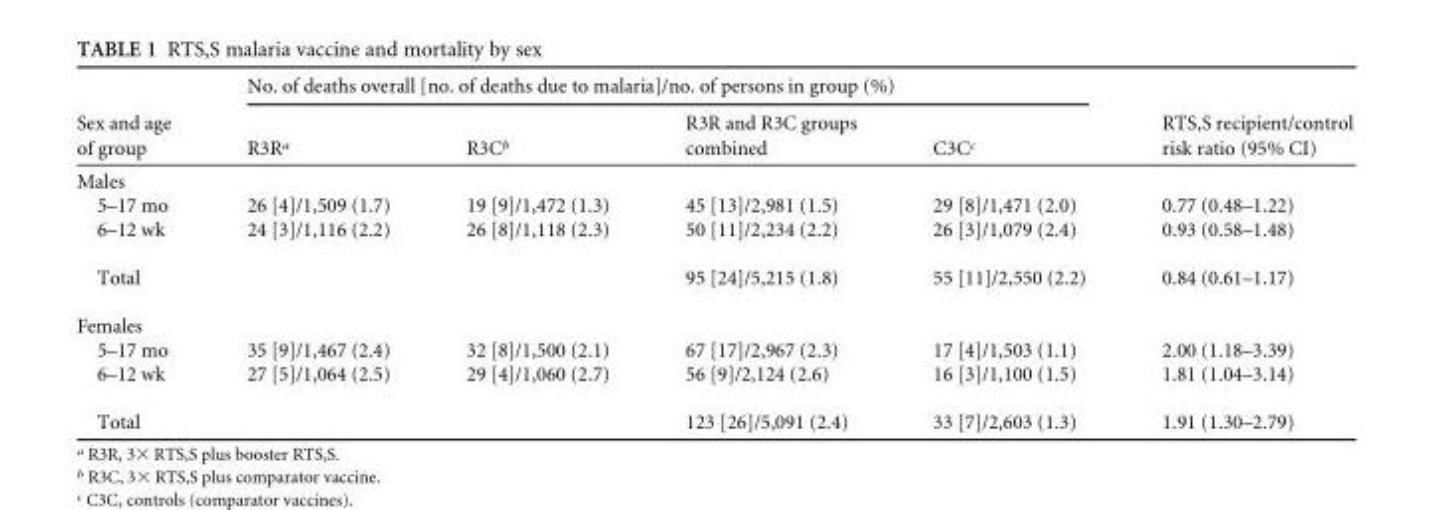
<table><thead><tr><td rowspan="2">Sex and age of group</td><td colspan="4">No. of deaths overall [no. of deaths due to malaria]/no. of persons in group (%)</td><td rowspan="2">RTS,S recipient/control risk ratio (95% CI)</td></tr><tr><td>R3R<sup>a</sup></td><td>R3C<sup>b</sup></td><td>R3R and R3C groups combined</td><td>C3C<sup>c</sup></td></tr></thead><tbody><tr><td colspan="6">Males</td></tr><tr><td>5–17 mo</td><td>26 [4]/1,509 (1.7)</td><td>19 [9]/1,472 (1.3)</td><td>45 [13]/2,981 (1.5)</td><td>29 [8]/1,471 (2.0)</td><td>0.77 (0.48–1.22)</td></tr><tr><td>6–12 wk</td><td>24 [3]/1,116 (2.2)</td><td>26 [8]/1,118 (2.3)</td><td>50 [11]/2,234 (2.2)</td><td>26 [3]/1,079 (2.4)</td><td>0.93 (0.58–1.48)</td></tr><tr><td>Total</td><td></td><td></td><td>95 [24]/5,215 (1.8)</td><td>55 [11]/2,550 (2.2)</td><td>0.84 (0.61–1.17)</td></tr><tr><td colspan="6">Females</td></tr><tr><td>5–17 mo</td><td>35 [9]/1,467 (2.4)</td><td>32 [8]/1,500 (2.1)</td><td>67 [17]/2,967 (2.3)</td><td>17 [4]/1,503 (1.1)</td><td>2.00 (1.18–3.39)</td></tr><tr><td>6–12 wk</td><td>27 [5]/1,064 (2.5)</td><td>29 [4]/1,060 (2.7)</td><td>56 [9]/2,124 (2.6)</td><td>16 [3]/1,100 (1.5)</td><td>1.81 (1.04–3.14)</td></tr><tr><td>Total</td><td></td><td></td><td>123 [26]/5,091 (2.4)</td><td>33 [7]/2,603 (1.3)</td><td>1.91 (1.30–2.79)</td></tr></tbody></table>